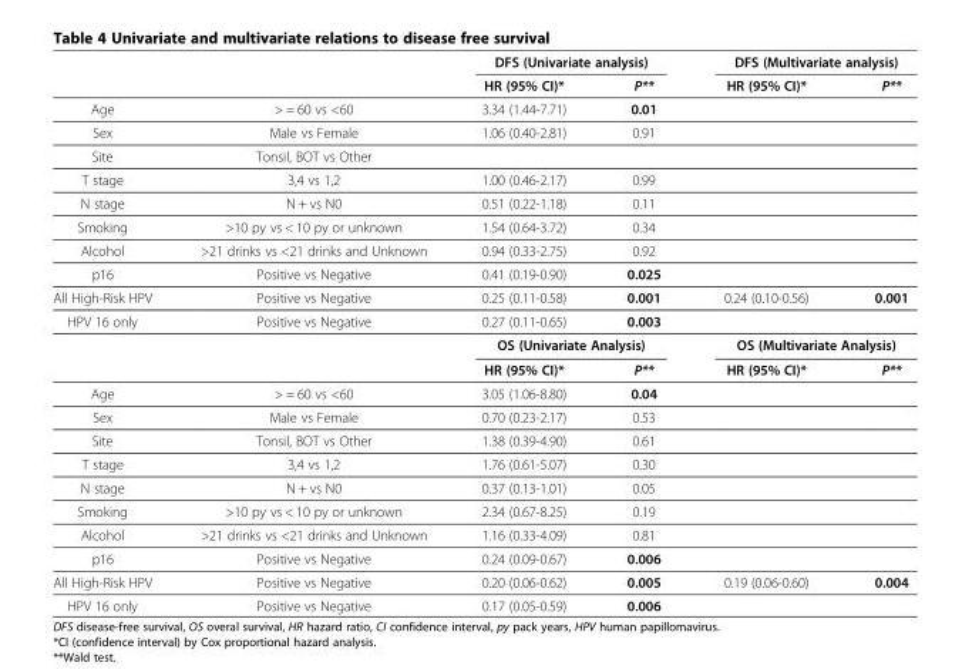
<table><thead><tr><td rowspan="2"></td><td rowspan="2"></td><td colspan="2">DFS (Univariate analysis)</td><td colspan="2">DFS (Multivariate analysis)</td></tr><tr><td>HR (95% CI)*</td><td>P**</td><td>HR (95% CI)*</td><td>P**</td></tr></thead><tbody><tr><td>Age</td><td>&gt; = 60 vs &lt;60</td><td>3.34 (1.44-7.71)</td><td>0.01</td><td></td><td></td></tr><tr><td>Sex</td><td>Male vs Female</td><td>1.06 (0.40-2.81)</td><td>0.91</td><td></td><td></td></tr><tr><td>Site</td><td>Tonsil, BOT vs Other</td><td></td><td></td><td></td><td></td></tr><tr><td>T stage</td><td>3,4 vs 1,2</td><td>1.00 (0.46-2.17)</td><td>0.99</td><td></td><td></td></tr><tr><td>N stage</td><td>N + vs N0</td><td>0.51 (0.22-1.18)</td><td>0.11</td><td></td><td></td></tr><tr><td>Smoking</td><td>&gt;10 py vs &lt; 10 py or unknown</td><td>1.54 (0.64-3.72)</td><td>0.34</td><td></td><td></td></tr><tr><td>Alcohol</td><td>&gt;21 drinks vs &lt;21 drinks and Unknown</td><td>0.94 (0.33-2.75)</td><td>0.92</td><td></td><td></td></tr><tr><td>p16</td><td>Positive vs Negative</td><td>0.41 (0.19-0.90)</td><td>0.025</td><td></td><td></td></tr><tr><td>All High-Risk HPV</td><td>Positive vs Negative</td><td>0.25 (0.11-0.58)</td><td>0.001</td><td>0.24 (0.10-0.56)</td><td>0.001</td></tr><tr><td rowspan="3">HPV 16 only</td><td>Positive vs Negative</td><td>0.27 (0.11-0.65)</td><td>0.003</td><td></td><td></td></tr><tr><td></td><td colspan="2">OS (Univariate Analysis)</td><td colspan="2">OS (Multivariate Analysis)</td></tr><tr><td></td><td>HR (95% CI)*</td><td>P**</td><td>HR (95% CI)*</td><td>P**</td></tr><tr><td>Age</td><td>&gt; = 60 vs &lt;60</td><td>3.05 (1.06-8.80)</td><td>0.04</td><td></td><td></td></tr><tr><td>Sex</td><td>Male vs Female</td><td>0.70 (0.23-2.17)</td><td>0.53</td><td></td><td></td></tr><tr><td>Site</td><td>Tonsil, BOT vs Other</td><td>1.38 (0.39-4.90)</td><td>0.61</td><td></td><td></td></tr><tr><td>T stage</td><td>3,4 vs 1,2</td><td>1.76 (0.61-5.07)</td><td>0.30</td><td></td><td></td></tr><tr><td>N stage</td><td>N + vs N0</td><td>0.37 (0.13-1.01)</td><td>0.05</td><td></td><td></td></tr><tr><td>Smoking</td><td>&gt;10 py vs &lt; 10 py or unknown</td><td>2.34 (0.67-8.25)</td><td>0.19</td><td></td><td></td></tr><tr><td>Alcohol</td><td>&gt;21 drinks vs &lt;21 drinks and Unknown</td><td>1.16 (0.33-4.09)</td><td>0.81</td><td></td><td></td></tr><tr><td>p16</td><td>Positive vs Negative</td><td>0.24 (0.09-0.67)</td><td>0.006</td><td></td><td></td></tr><tr><td>All High-Risk HPV</td><td>Positive vs Negative</td><td>0.20 (0.06-0.62)</td><td>0.005</td><td>0.19 (0.06-0.60)</td><td>0.004</td></tr><tr><td>HPV 16 only</td><td>Positive vs Negative</td><td>0.17 (0.05-0.59)</td><td>0.006</td><td></td><td></td></tr></tbody></table>